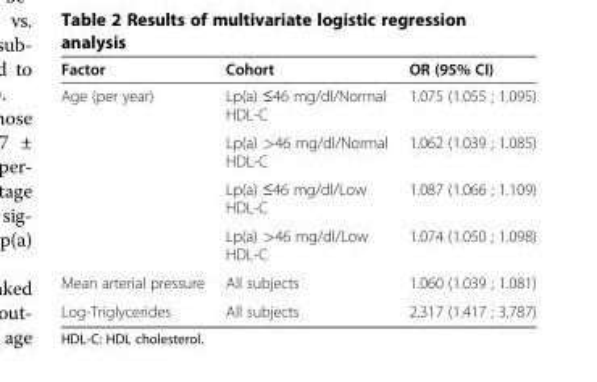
<table><thead><tr><td>Factor</td><td>Cohort</td><td>OR (95% CI)</td></tr></thead><tbody><tr><td rowspan="4">Age (per year)</td><td>Lp(a) ≤46 mg/dl/Normal HDL-C</td><td>1.075 (1.055 ; 1.095)</td></tr><tr><td>Lp(a) &gt;46 mg/dl/Normal HDL-C</td><td>1.062 (1.039 ; 1.085)</td></tr><tr><td>Lp(a) ≤46 mg/dl/Low HDL-C</td><td>1.087 (1.066 ; 1.109)</td></tr><tr><td>Lp(a) &gt;46 mg/dl/Low HDL-C</td><td>1.074 (1.050 ; 1.098)</td></tr><tr><td>Mean arterial pressure</td><td>All subjects</td><td>1.060 (1.039 ; 1.081)</td></tr><tr><td>Log-Triglycerides</td><td>All subjects</td><td>2.317 (1.417 ; 3.787)</td></tr></tbody></table>